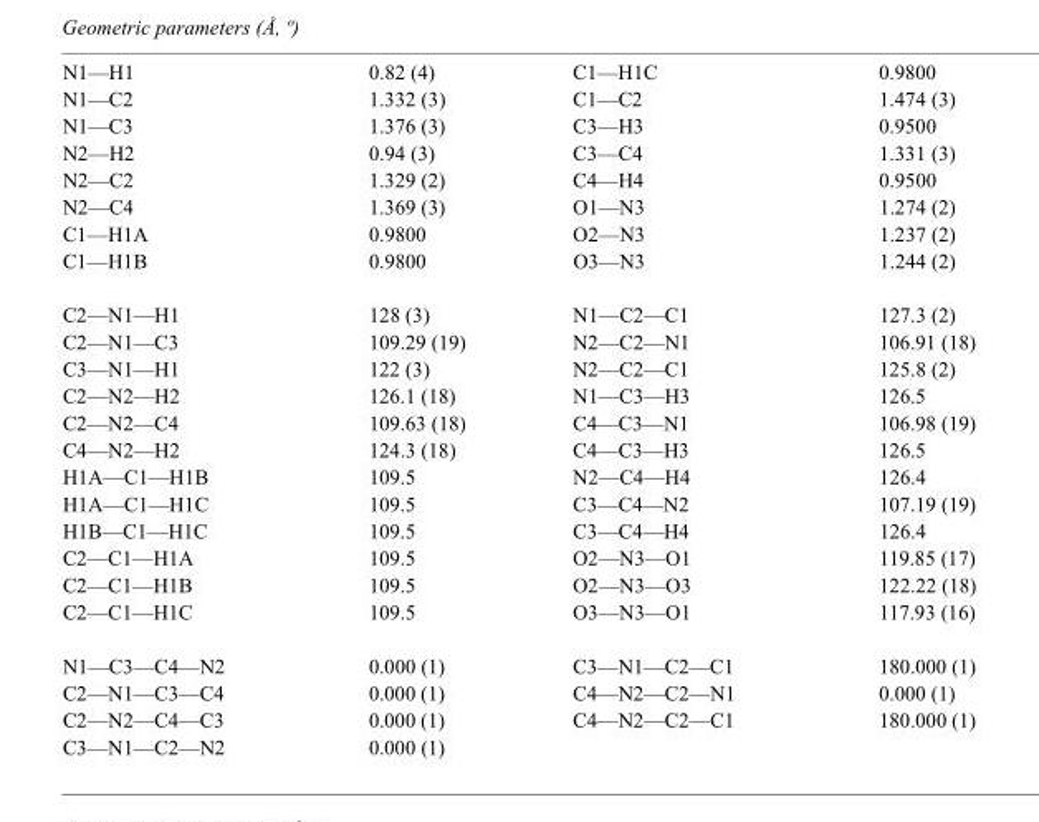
<table><tbody><tr><td>N1—H1</td><td>0.82 (4)</td><td>C1—H1C</td><td>0.9800</td></tr><tr><td>N1—C2</td><td>1.332 (3)</td><td>C1—C2</td><td>1.474 (3)</td></tr><tr><td>N1—C3</td><td>1.376 (3)</td><td>C3—H3</td><td>0.9500</td></tr><tr><td>N2—H2</td><td>0.94 (3)</td><td>C3—C4</td><td>1.331 (3)</td></tr><tr><td>N2—C2</td><td>1.329 (2)</td><td>C4—H4</td><td>0.9500</td></tr><tr><td>N2—C4</td><td>1.369 (3)</td><td>O1—N3</td><td>1.274 (2)</td></tr><tr><td>C1—H1A</td><td>0.9800</td><td>O2—N3</td><td>1.237 (2)</td></tr><tr><td>C1—H1B</td><td>0.9800</td><td>O3—N3</td><td>1.244 (2)</td></tr><tr><td>C2—N1—H1</td><td>128 (3)</td><td>N1—C2—C1</td><td>127.3 (2)</td></tr><tr><td>C2—N1—C3</td><td>109.29 (19)</td><td>N2—C2—N1</td><td>106.91 (18)</td></tr><tr><td>C3—N1—H1</td><td>122 (3)</td><td>N2—C2—C1</td><td>125.8 (2)</td></tr><tr><td>C2—N2—H2</td><td>126.1 (18)</td><td>N1—C3—H3</td><td>126.5</td></tr><tr><td>C2—N2—C4</td><td>109.63 (18)</td><td>C4—C3—N1</td><td>106.98 (19)</td></tr><tr><td>C4—N2—H2</td><td>124.3 (18)</td><td>C4—C3—H3</td><td>126.5</td></tr><tr><td>H1A—C1—H1B</td><td>109.5</td><td>N2—C4—H4</td><td>126.4</td></tr><tr><td>H1A—C1—H1C</td><td>109.5</td><td>C3—C4—N2</td><td>107.19 (19)</td></tr><tr><td>H1B—C1—H1C</td><td>109.5</td><td>C3—C4—H4</td><td>126.4</td></tr><tr><td>C2—C1—H1A</td><td>109.5</td><td>O2—N3—O1</td><td>119.85 (17)</td></tr><tr><td>C2—C1—H1B</td><td>109.5</td><td>O2—N3—O3</td><td>122.22 (18)</td></tr><tr><td>C2—C1—H1C</td><td>109.5</td><td>O3—N3—O1</td><td>117.93 (16)</td></tr><tr><td>N1—C3—C4—N2</td><td>0.000 (1)</td><td>C3—N1—C2—C1</td><td>180.000 (1)</td></tr><tr><td>C2—N1—C3—C4</td><td>0.000 (1)</td><td>C4—N2—C2—N1</td><td>0.000 (1)</td></tr><tr><td>C2—N2—C4—C3</td><td>0.000 (1)</td><td>C4—N2—C2—C1</td><td>180.000 (1)</td></tr><tr><td>C3—N1—C2—N2</td><td>0.000 (1)</td><td></td><td></td></tr></tbody></table>